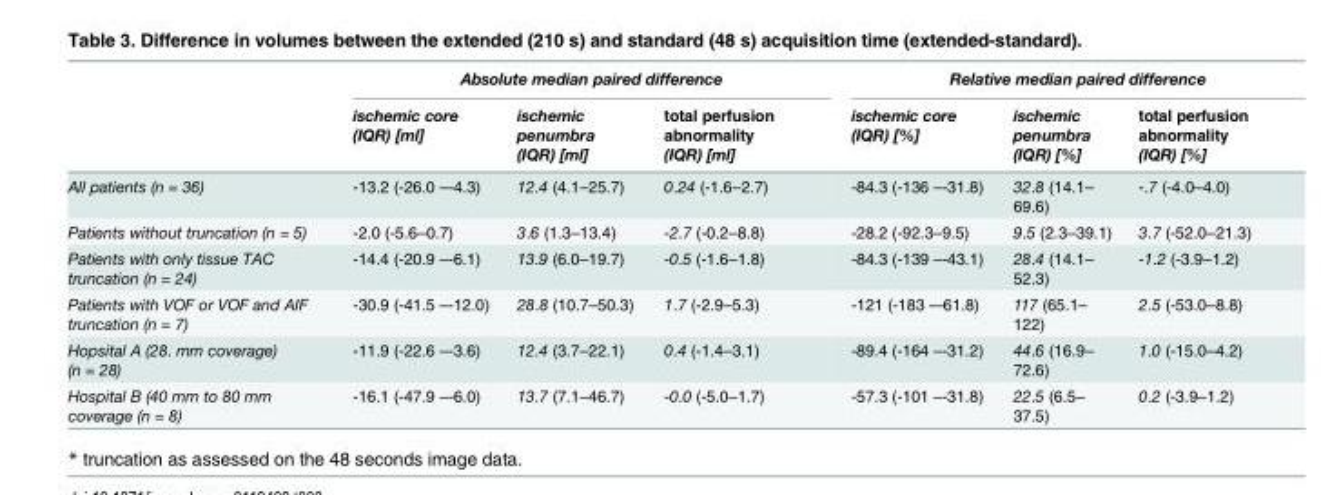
<table><thead><tr><td rowspan="2"></td><td colspan="3">Absolute median paired difference</td><td colspan="3">Relative median paired difference</td></tr><tr><td>ischemic core (IQR) [ml]</td><td>ischemic penumbra (IQR) [ml]</td><td>total perfusion abnormality (IQR) [ml]</td><td>ischemic core (IQR) [%]</td><td>ischemic penumbra (IQR) [%]</td><td>total perfusion abnormality (IQR) [%]</td></tr></thead><tbody><tr><td>All patients (n = 36)</td><td>-13.2 (-26.0 –-4.3)</td><td>12.4 (4.1–25.7)</td><td>0.24 (-1.6–2.7)</td><td>-84.3 (-136 –-31.8)</td><td>32.8 (14.1– 69.6)</td><td>-.7 (-4.0–4.0)</td></tr><tr><td>Patients without truncation (n = 5)</td><td>-2.0 (-5.6–0.7)</td><td>3.6 (1.3–13.4)</td><td>-2.7 (-0.2–8.8)</td><td>-28.2 (-92.3–9.5)</td><td>9.5 (2.3–39.1)</td><td>3.7 (-52.0–21.3)</td></tr><tr><td>Patients with only tissue TAC truncation (n = 24)</td><td>-14.4 (-20.9 –-6.1)</td><td>13.9 (6.0–19.7)</td><td>-0.5 (-1.6–1.8)</td><td>-84.3 (-139 –-43.1)</td><td>28.4 (14.1– 52.3)</td><td>-1.2 (-3.9–1.2)</td></tr><tr><td>Patients with VOF or VOF and AIF truncation (n = 7)</td><td>-30.9 (-41.5 –-12.0)</td><td>28.8 (10.7–50.3)</td><td>1.7 (-2.9–5.3)</td><td>-121 (-183 –-61.8)</td><td>117 (65.1– 122)</td><td>2.5 (-53.0–8.8)</td></tr><tr><td>Hopsital A (28. mm coverage) (n = 28)</td><td>-11.9 (-22.6 –-3.6)</td><td>12.4 (3.7–22.1)</td><td>0.4 (-1.4–3.1)</td><td>-89.4 (-164 –-31.2)</td><td>44.6 (16.9– 72.6)</td><td>1.0 (-15.0–4.2)</td></tr><tr><td>Hospital B (40 mm to 80 mm coverage (n = 8)</td><td>-16.1 (-47.9 –-6.0)</td><td>13.7 (7.1–46.7)</td><td>-0.0 (-5.0–1.7)</td><td>-57.3 (-101 –-31.8)</td><td>22.5 (6.5– 37.5)</td><td>0.2 (-3.9–1.2)</td></tr></tbody></table>